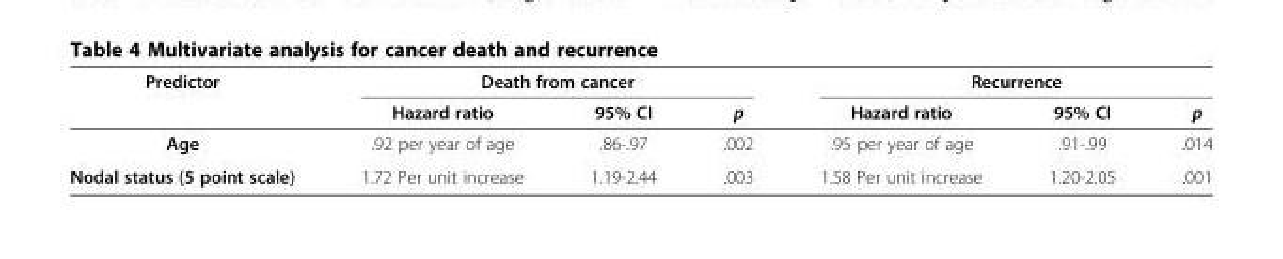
<table><thead><tr><td rowspan="2">Predictor</td><td colspan="3">Death from cancer</td><td colspan="3">Recurrence</td></tr><tr><td>Hazard ratio</td><td>95% CI</td><td>p</td><td>Hazard ratio</td><td>95% CI</td><td>p</td></tr></thead><tbody><tr><td>Age</td><td>.92 per year of age</td><td>.86-.97</td><td>.002</td><td>.95 per year of age</td><td>.91-.99</td><td>.014</td></tr><tr><td>Nodal status (5 point scale)</td><td>1.72 Per unit increase</td><td>1.19-2.44</td><td>.003</td><td>1.58 Per unit increase</td><td>1.20-2.05</td><td>.001</td></tr></tbody></table>